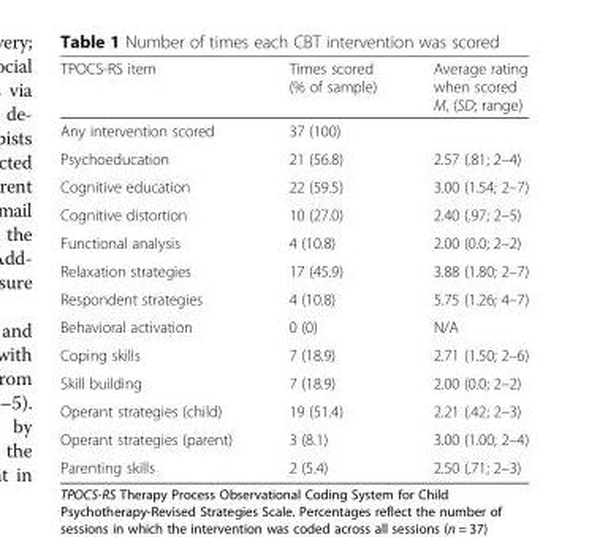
<table><thead><tr><td>TPOCS-RS item</td><td>Times scored (% of sample)</td><td>Average rating when scored M, (SD; range)</td></tr></thead><tbody><tr><td>Any intervention scored</td><td>37 (100)</td><td></td></tr><tr><td>Psychoeducation</td><td>21 (56.8)</td><td>2.57 (.81; 2–4)</td></tr><tr><td>Cognitive education</td><td>22 (59.5)</td><td>3.00 (1.54; 2–7)</td></tr><tr><td>Cognitive distortion</td><td>10 (27.0)</td><td>2.40 (.97; 2–5)</td></tr><tr><td>Functional analysis</td><td>4 (10.8)</td><td>2.00 (0.0; 2–2)</td></tr><tr><td>Relaxation strategies</td><td>17 (45.9)</td><td>3.88 (1.80; 2–7)</td></tr><tr><td>Respondent strategies</td><td>4 (10.8)</td><td>5.75 (1.26; 4–7)</td></tr><tr><td>Behavioral activation</td><td>0 (0)</td><td>N/A</td></tr><tr><td>Coping skills</td><td>7 (18.9)</td><td>2.71 (1.50; 2–6)</td></tr><tr><td>Skill building</td><td>7 (18.9)</td><td>2.00 (0.0; 2–2)</td></tr><tr><td>Operant strategies (child)</td><td>19 (51.4)</td><td>2.21 (.42; 2–3)</td></tr><tr><td>Operant strategies (parent)</td><td>3 (8.1)</td><td>3.00 (1.00; 2–4)</td></tr><tr><td>Parenting skills</td><td>2 (5.4)</td><td>2.50 (.71; 2–3)</td></tr></tbody></table>